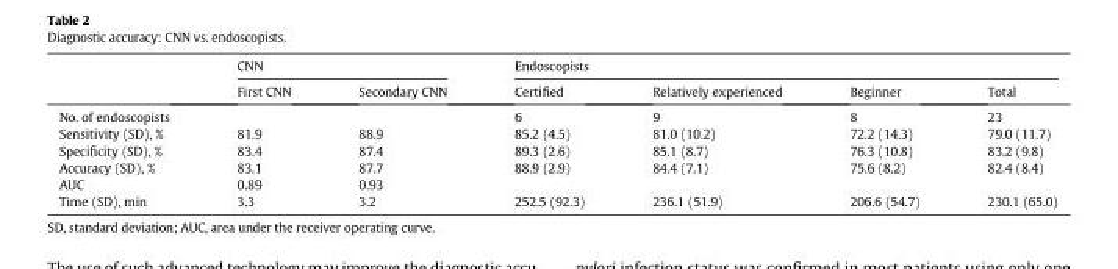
<table><thead><tr><td rowspan="2"></td><td colspan="2">CNN</td><td colspan="4">Endoscopists</td></tr><tr><td>First CNN</td><td>Secondary CNN</td><td>Certified</td><td>Relatively experienced</td><td>Beginner</td><td>Total</td></tr></thead><tbody><tr><td>No. of endoscopists</td><td></td><td></td><td>6</td><td>9</td><td>8</td><td>23</td></tr><tr><td>Sensitivity (SD), %</td><td>81.9</td><td>88.9</td><td>85.2 (4.5)</td><td>81.0 (10.2)</td><td>72.2 (14.3)</td><td>79.0 (11.7)</td></tr><tr><td>Specificity (SD), %</td><td>83.4</td><td>87.4</td><td>89.3 (2.6)</td><td>85.1 (8.7)</td><td>76.3 (10.8)</td><td>83.2 (9.8)</td></tr><tr><td>Accuracy (SD), %</td><td>83.1</td><td>87.7</td><td>88.9 (2.9)</td><td>84.4 (7.1)</td><td>75.6 (8.2)</td><td>82.4 (8.4)</td></tr><tr><td>AUC</td><td>0.89</td><td>0.93</td><td></td><td></td><td></td><td></td></tr><tr><td>Time (SD), min</td><td>3.3</td><td>3.2</td><td>252.5 (92.3)</td><td>236.1 (51.9)</td><td>206.6 (54.7)</td><td>230.1 (65.0)</td></tr></tbody></table>